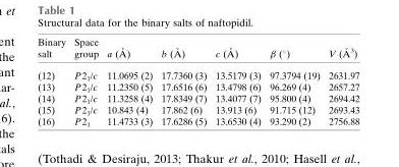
<table><thead><tr><td>Binary salt</td><td>Space group</td><td>a (A˚ )</td><td>b (A˚ )</td><td>c (A˚ )</td><td>β (°)</td><td>V (A˚ 3)</td></tr></thead><tbody><tr><td>(12)</td><td>P2<sub>1</sub>/c</td><td>11.0695 (2)</td><td>17.7360 (3)</td><td>13.5179 (3)</td><td>97.3794 (19)</td><td>2631.97</td></tr><tr><td>(13)</td><td>P2<sub>1</sub>/c</td><td>11.2350 (5)</td><td>17.6516 (6)</td><td>13.4798 (6)</td><td>96.269 (4)</td><td>2657.27</td></tr><tr><td>(14)</td><td>P2<sub>1</sub>/c</td><td>11.3258 (4)</td><td>17.8349 (7)</td><td>13.4077 (7)</td><td>95.800 (4)</td><td>2694.42</td></tr><tr><td>(15)</td><td>P2<sub>1</sub>/c</td><td>10.843 (4)</td><td>17.862 (6)</td><td>13.913 (6)</td><td>91.715 (12)</td><td>2693.43</td></tr><tr><td>(16)</td><td>P2<sub>1</sub></td><td>11.4733 (3)</td><td>17.6286 (5)</td><td>13.6530 (4)</td><td>93.290 (2)</td><td>2756.88</td></tr></tbody></table>